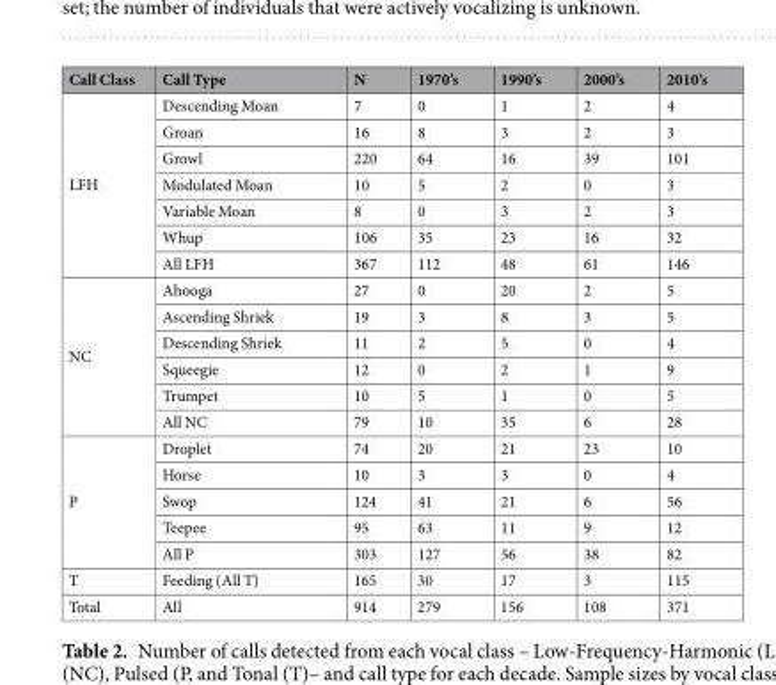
<table><thead><tr><td>Call Class</td><td>Call Type</td><td>N</td><td>1970’s</td><td>1990’s</td><td>2000’s</td><td>2010’s</td></tr></thead><tbody><tr><td rowspan="7">LFH</td><td>Descending Moan</td><td>7</td><td>0</td><td>1</td><td>2</td><td>4</td></tr><tr><td>Groan</td><td>16</td><td>8</td><td>3</td><td>2</td><td>3</td></tr><tr><td>Growl</td><td>220</td><td>64</td><td>16</td><td>39</td><td>101</td></tr><tr><td>Modulated Moan</td><td>10</td><td>5</td><td>2</td><td>0</td><td>3</td></tr><tr><td>Variable Moan</td><td>8</td><td>0</td><td>3</td><td>2</td><td>3</td></tr><tr><td>Whup</td><td>106</td><td>35</td><td>23</td><td>16</td><td>32</td></tr><tr><td>All LFH</td><td>367</td><td>112</td><td>48</td><td>61</td><td>146</td></tr><tr><td rowspan="6">NC</td><td>Ahooga</td><td>27</td><td>0</td><td>20</td><td>2</td><td>5</td></tr><tr><td>Ascending Shriek</td><td>19</td><td>3</td><td>8</td><td>3</td><td>5</td></tr><tr><td>Descending Shriek</td><td>11</td><td>2</td><td>5</td><td>0</td><td>4</td></tr><tr><td>Squeegie</td><td>12</td><td>0</td><td>2</td><td>1</td><td>9</td></tr><tr><td>Trumpet</td><td>10</td><td>5</td><td>1</td><td>0</td><td>5</td></tr><tr><td>All NC</td><td>79</td><td>10</td><td>35</td><td>6</td><td>28</td></tr><tr><td rowspan="5">P</td><td>Droplet</td><td>74</td><td>20</td><td>21</td><td>23</td><td>10</td></tr><tr><td>Horse</td><td>10</td><td>3</td><td>3</td><td>0</td><td>4</td></tr><tr><td>Swop</td><td>124</td><td>41</td><td>21</td><td>6</td><td>56</td></tr><tr><td>Teepee</td><td>95</td><td>63</td><td>11</td><td>9</td><td>12</td></tr><tr><td>All P</td><td>303</td><td>127</td><td>56</td><td>38</td><td>82</td></tr><tr><td>T</td><td>Feeding (All T)</td><td>165</td><td>30</td><td>17</td><td>3</td><td>115</td></tr><tr><td>Total</td><td>All</td><td>914</td><td>279</td><td>156</td><td>108</td><td>371</td></tr></tbody></table>